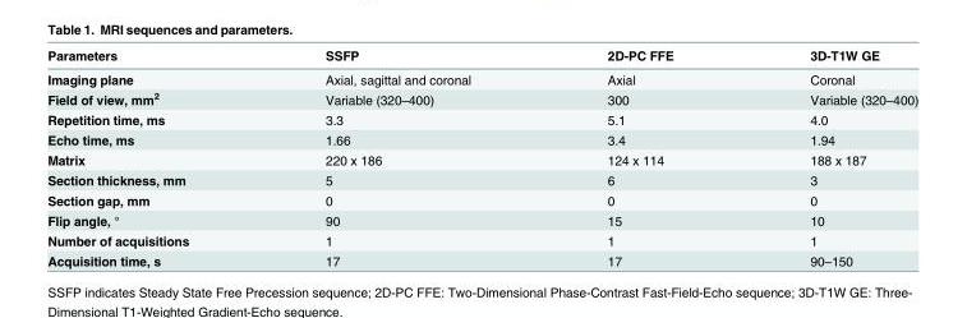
<table><thead><tr><td>Parameters</td><td>SSFP</td><td>2D-PC FFE</td><td>3D-T1W GE</td></tr></thead><tbody><tr><td>Imaging plane</td><td>Axial, sagittal and coronal</td><td>Axial</td><td>Coronal</td></tr><tr><td>Field of view, mm<sup>2</sup></td><td>Variable (320–400)</td><td>300</td><td>Variable (320–400)</td></tr><tr><td>Repetition time, ms</td><td>3.3</td><td>5.1</td><td>4.0</td></tr><tr><td>Echo time, ms</td><td>1.66</td><td>3.4</td><td>1.94</td></tr><tr><td>Matrix</td><td>220 x 186</td><td>124 x 114</td><td>188 x 187</td></tr><tr><td>Section thickness, mm</td><td>5</td><td>6</td><td>3</td></tr><tr><td>Section gap, mm</td><td>0</td><td>0</td><td>0</td></tr><tr><td>Flip angle, °</td><td>90</td><td>15</td><td>10</td></tr><tr><td>Number of acquisitions</td><td>1</td><td>1</td><td>1</td></tr><tr><td>Acquisition time, s</td><td>17</td><td>17</td><td>90–150</td></tr></tbody></table>